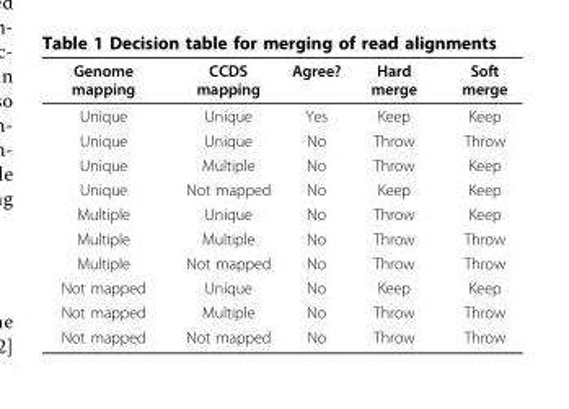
<table><thead><tr><td>Genome mapping</td><td>CCDS mapping</td><td>Agree?</td><td>Hard merge</td><td>Soft merge</td></tr></thead><tbody><tr><td>Unique</td><td>Unique</td><td>Yes</td><td>Keep</td><td>Keep</td></tr><tr><td>Unique</td><td>Unique</td><td>No</td><td>Throw</td><td>Throw</td></tr><tr><td>Unique</td><td>Multiple</td><td>No</td><td>Throw</td><td>Keep</td></tr><tr><td>Unique</td><td>Not mapped</td><td>No</td><td>Keep</td><td>Keep</td></tr><tr><td>Multiple</td><td>Unique</td><td>No</td><td>Throw</td><td>Keep</td></tr><tr><td>Multiple</td><td>Multiple</td><td>No</td><td>Throw</td><td>Throw</td></tr><tr><td>Multiple</td><td>Not mapped</td><td>No</td><td>Throw</td><td>Throw</td></tr><tr><td>Not mapped</td><td>Unique</td><td>No</td><td>Keep</td><td>Keep</td></tr><tr><td>Not mapped</td><td>Multiple</td><td>No</td><td>Throw</td><td>Throw</td></tr><tr><td>Not mapped</td><td>Not mapped</td><td>No</td><td>Throw</td><td>Throw</td></tr></tbody></table>